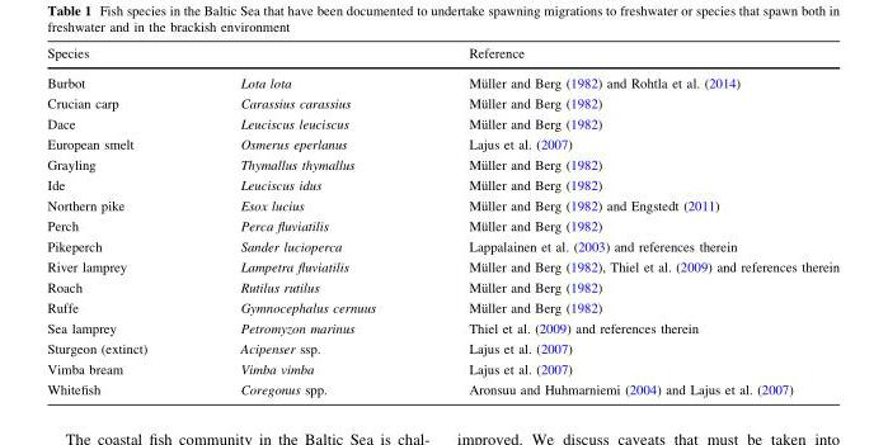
<table><thead><tr><td colspan="2">Species</td><td rowspan="2">Reference Mu¨ller and Berg (1982) and Rohtla et al. (2014)</td></tr><tr><td>Burbot</td><td>Lota lota</td></tr></thead><tbody><tr><td>Crucian carp</td><td>Carassius carassius</td><td>Mu¨ller and Berg (1982)</td></tr><tr><td>Dace</td><td>Leuciscus leuciscus</td><td>Mu¨ller and Berg (1982)</td></tr><tr><td>European smelt</td><td>Osmerus eperlanus</td><td>Lajus et al. (2007)</td></tr><tr><td>Grayling</td><td>Thymallus thymallus</td><td>Mu¨ller and Berg (1982)</td></tr><tr><td>Ide</td><td>Leuciscus idus</td><td>Mu¨ller and Berg (1982)</td></tr><tr><td>Northern pike</td><td>Esox lucius</td><td>Mu¨ller and Berg (1982) and Engstedt (2011)</td></tr><tr><td>Perch</td><td>Perca fluviatilis</td><td>Mu¨ller and Berg (1982)</td></tr><tr><td>Pikeperch</td><td>Sander lucioperca</td><td>Lappalainen et al. (2003) and references therein</td></tr><tr><td>River lamprey</td><td>Lampetra fluviatilis</td><td>Mu¨ller and Berg (1982), Thiel et al. (2009) and references therein</td></tr><tr><td>Roach</td><td>Rutilus rutilus</td><td>Mu¨ller and Berg (1982)</td></tr><tr><td>Ruffe</td><td>Gymnocephalus cernuus</td><td>Mu¨ller and Berg (1982)</td></tr><tr><td>Sea lamprey</td><td>Petromyzon marinus</td><td>Thiel et al. (2009) and references therein</td></tr><tr><td>Sturgeon (extinct)</td><td>Acipenser ssp.</td><td>Lajus et al. (2007)</td></tr><tr><td>Vimba bream</td><td>Vimba vimba</td><td>Lajus et al. (2007)</td></tr><tr><td>Whitefish</td><td>Coregonus spp.</td><td>Aronsuu and Huhmarniemi (2004) and Lajus et al. (2007)</td></tr></tbody></table>